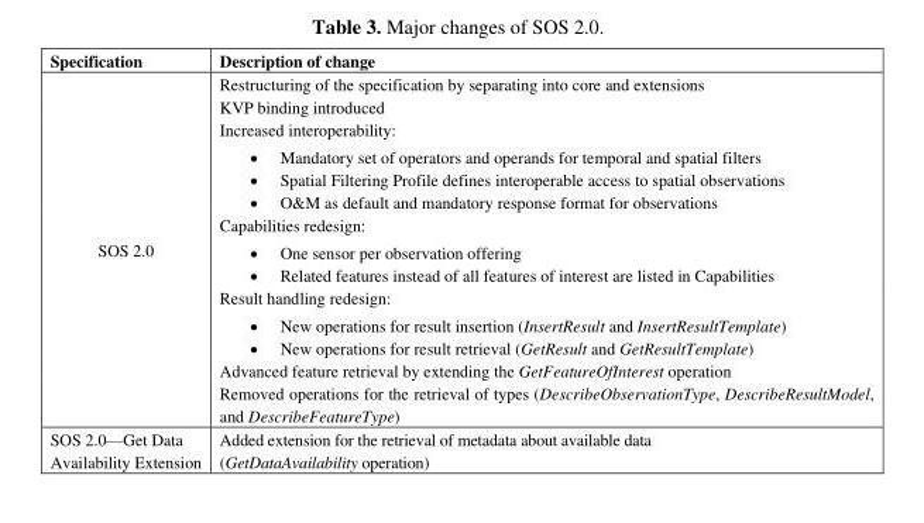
<table><thead><tr><td>Specification</td><td>Description of change</td></tr></thead><tbody><tr><td>SOS 2.0</td><td>Restructuring of the specification by separating into core and extensions KVP binding introduced Increased interoperability:  Mandatory set of operators and operands for temporal and spatial filters  Spatial Filtering Profile defines interoperable access to spatial observations  O&amp;M as default and mandatory response format for observations Capabilities redesign:  One sensor per observation offering  Related features instead of all features of interest are listed in Capabilities Result handling redesign:  New operations for result insertion (InsertResult and InsertResultTemplate)  New operations for result retrieval (GetResult and GetResultTemplate) Advanced feature retrieval by extending the GetFeatureOfInterest operation Removed operations for the retrieval of types (DescribeObservationType, DescribeResultModel, and DescribeFeatureType)</td></tr><tr><td>SOS 2.0—Get Data Availability Extension</td><td>Added extension for the retrieval of metadata about available data (GetDataAvailability operation)</td></tr></tbody></table>